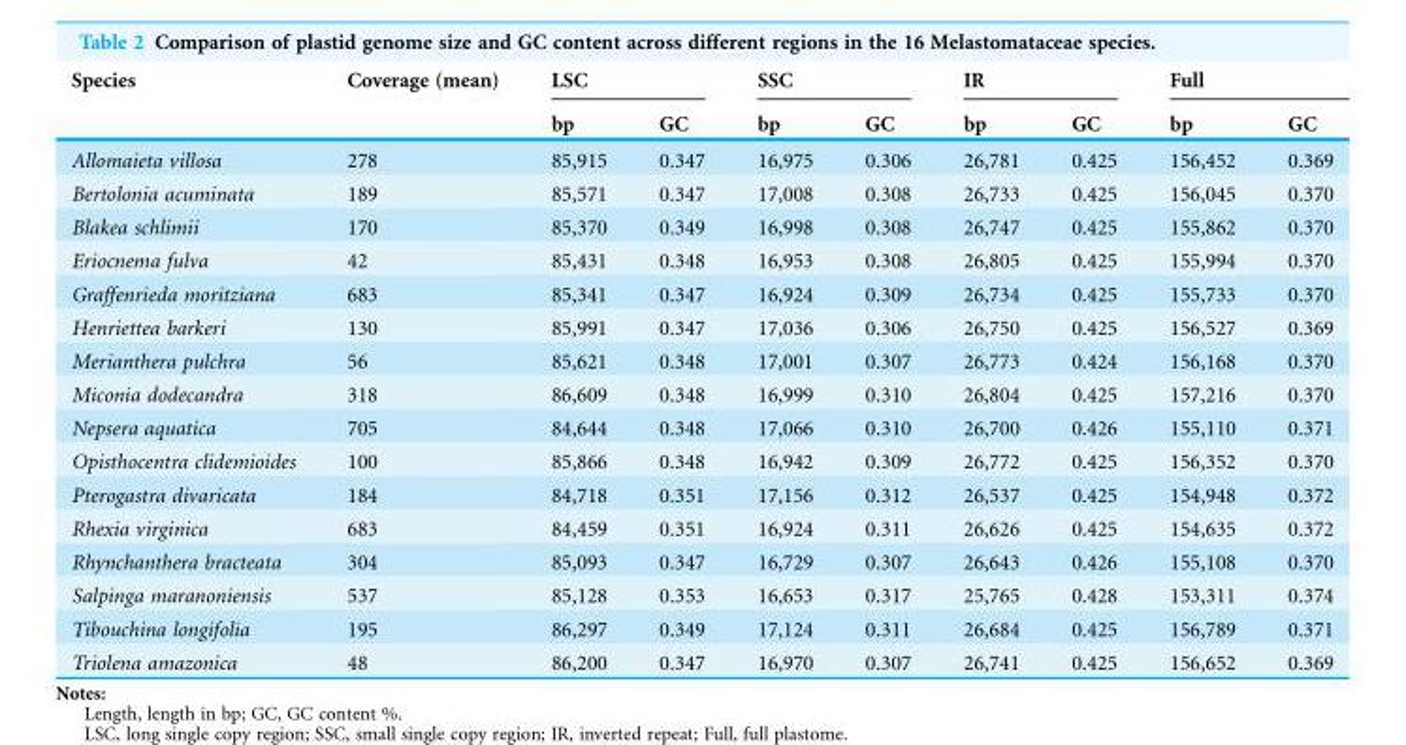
<table><thead><tr><td rowspan="2">Species</td><td rowspan="2">Coverage (mean)</td><td colspan="2">LSC</td><td colspan="2">SSC</td><td colspan="2">IR</td><td colspan="2">Full</td></tr><tr><td>bp</td><td>GC</td><td>bp</td><td>GC</td><td>bp</td><td>GC</td><td>bp</td><td>GC</td></tr></thead><tbody><tr><td>Allomaieta villosa</td><td>278</td><td>85,915</td><td>0.347</td><td>16,975</td><td>0.306</td><td>26,781</td><td>0.425</td><td>156,452</td><td>0.369</td></tr><tr><td>Bertolonia acuminata</td><td>189</td><td>85,571</td><td>0.347</td><td>17,008</td><td>0.308</td><td>26,733</td><td>0.425</td><td>156,045</td><td>0.370</td></tr><tr><td>Blakea schlimii</td><td>170</td><td>85,370</td><td>0.349</td><td>16,998</td><td>0.308</td><td>26,747</td><td>0.425</td><td>155,862</td><td>0.370</td></tr><tr><td>Eriocnema fulva</td><td>42</td><td>85,431</td><td>0.348</td><td>16,953</td><td>0.308</td><td>26,805</td><td>0.425</td><td>155,994</td><td>0.370</td></tr><tr><td>Graffenrieda moritziana</td><td>683</td><td>85,341</td><td>0.347</td><td>16,924</td><td>0.309</td><td>26,734</td><td>0.425</td><td>155,733</td><td>0.370</td></tr><tr><td>Henriettea barkeri</td><td>130</td><td>85,991</td><td>0.347</td><td>17,036</td><td>0.306</td><td>26,750</td><td>0.425</td><td>156,527</td><td>0.369</td></tr><tr><td>Merianthera pulchra</td><td>56</td><td>85,621</td><td>0.348</td><td>17,001</td><td>0.307</td><td>26,773</td><td>0.424</td><td>156,168</td><td>0.370</td></tr><tr><td>Miconia dodecandra</td><td>318</td><td>86,609</td><td>0.348</td><td>16,999</td><td>0.310</td><td>26,804</td><td>0.425</td><td>157,216</td><td>0.370</td></tr><tr><td>Nepsera aquatica</td><td>705</td><td>84,644</td><td>0.348</td><td>17,066</td><td>0.310</td><td>26,700</td><td>0.426</td><td>155,110</td><td>0.371</td></tr><tr><td>Opisthocentra clidemioides</td><td>100</td><td>85,866</td><td>0.348</td><td>16,942</td><td>0.309</td><td>26,772</td><td>0.425</td><td>156,352</td><td>0.370</td></tr><tr><td>Pterogastra divaricata</td><td>184</td><td>84,718</td><td>0.351</td><td>17,156</td><td>0.312</td><td>26,537</td><td>0.425</td><td>154,948</td><td>0.372</td></tr><tr><td>Rhexia virginica</td><td>683</td><td>84,459</td><td>0.351</td><td>16,924</td><td>0.311</td><td>26,626</td><td>0.425</td><td>154,635</td><td>0.372</td></tr><tr><td>Rhynchanthera bracteata</td><td>304</td><td>85,093</td><td>0.347</td><td>16,729</td><td>0.307</td><td>26,643</td><td>0.426</td><td>155,108</td><td>0.370</td></tr><tr><td>Salpinga maranoniensis</td><td>537</td><td>85,128</td><td>0.353</td><td>16,653</td><td>0.317</td><td>25,765</td><td>0.428</td><td>153,311</td><td>0.374</td></tr><tr><td>Tibouchina longifolia</td><td>195</td><td>86,297</td><td>0.349</td><td>17,124</td><td>0.311</td><td>26,684</td><td>0.425</td><td>156,789</td><td>0.371</td></tr><tr><td>Triolena amazonica</td><td>48</td><td>86,200</td><td>0.347</td><td>16,970</td><td>0.307</td><td>26,741</td><td>0.425</td><td>156,652</td><td>0.369</td></tr></tbody></table>